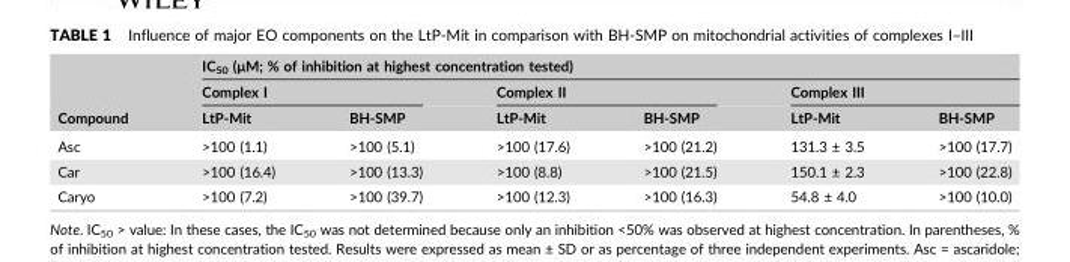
<table><thead><tr><td rowspan="3">Compound</td><td colspan="6">IC<sub>50</sub> (μM; % of inhibition at highest concentration tested)</td></tr><tr><td colspan="2">Complex I</td><td colspan="2">Complex II</td><td colspan="2">Complex III</td></tr><tr><td>LtP‐Mit</td><td>BH‐SMP</td><td>LtP‐Mit</td><td>BH‐SMP</td><td>LtP‐Mit</td><td>BH‐SMP</td></tr></thead><tbody><tr><td>Asc</td><td>&gt;100 (1.1)</td><td>&gt;100 (5.1)</td><td>&gt;100 (17.6)</td><td>&gt;100 (21.2)</td><td>131.3 ± 3.5</td><td>&gt;100 (17.7)</td></tr><tr><td>Car</td><td>&gt;100 (16.4)</td><td>&gt;100 (13.3)</td><td>&gt;100 (8.8)</td><td>&gt;100 (21.5)</td><td>150.1 ± 2.3</td><td>&gt;100 (22.8)</td></tr><tr><td>Caryo</td><td>&gt;100 (7.2)</td><td>&gt;100 (39.7)</td><td>&gt;100 (12.3)</td><td>&gt;100 (16.3)</td><td>54.8 ± 4.0</td><td>&gt;100 (10.0)</td></tr></tbody></table>